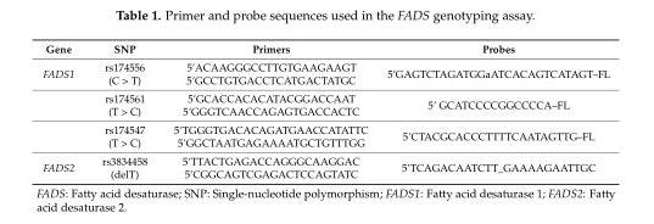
<table><thead><tr><td>Gene</td><td>SNP</td><td>Primers</td><td>Probes</td></tr></thead><tbody><tr><td rowspan="3">FADS1</td><td>rs174556 (C &gt; T)</td><td>5’ACAAGGGCCTTGTGAAGAAGT 5’GCCTGTGACCTCATGACTATGC</td><td>5’GAGTCTAGATGGaATCACAGTCATAGT–FL</td></tr><tr><td>rs174561 (T &gt; C)</td><td>5’GCACCACACATACGGACCAAT 5’GGGTCAACCAGAGTGACCACTC</td><td>5’ GCATCCCCGGCCCCA–FL</td></tr><tr><td>rs174547 (T &gt; C)</td><td>5’TGGGTGACACAGATGAACCATATTC 5’GGCTAATGAGAAAATGCTGTTTGG</td><td>5’CTACGCACCCTTTTCAATAGTTG–FL</td></tr><tr><td>FADS2</td><td>rs3834458 (delT)</td><td>5’TTACTGAGACCAGGGCAAGGAC 5’CGGCAGTCGAGACTCCAGTATC</td><td>5’TCAGACAATCTT_GAAAAGAATTGC</td></tr></tbody></table>